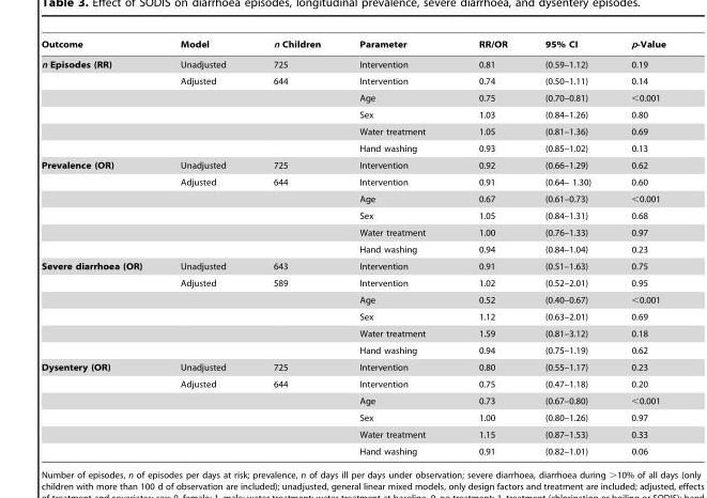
<table><thead><tr><td>Outcome</td><td>Model</td><td>n Children</td><td>Parameter</td><td>RR/OR</td><td>95% CI</td><td>p-Value</td></tr></thead><tbody><tr><td rowspan="6">n Episodes (RR)</td><td>Unadjusted</td><td>725</td><td>Intervention</td><td>0.81</td><td>(0.59–1.12)</td><td>0.19</td></tr><tr><td>Adjusted</td><td>644</td><td>Intervention</td><td>0.74</td><td>(0.50–1.11)</td><td>0.14</td></tr><tr><td></td><td></td><td>Age</td><td>0.75</td><td>(0.70–0.81)</td><td>&lt;0.001</td></tr><tr><td></td><td></td><td>Sex</td><td>1.03</td><td>(0.84–1.26)</td><td>0.80</td></tr><tr><td></td><td></td><td>Water treatment</td><td>1.05</td><td>(0.81–1.36)</td><td>0.69</td></tr><tr><td></td><td></td><td>Hand washing</td><td>0.93</td><td>(0.85–1.02)</td><td>0.13</td></tr><tr><td rowspan="6">Prevalence (OR)</td><td>Unadjusted</td><td>725</td><td>Intervention</td><td>0.92</td><td>(0.66–1.29)</td><td>0.62</td></tr><tr><td>Adjusted</td><td>644</td><td>Intervention</td><td>0.91</td><td>(0.64– 1.30)</td><td>0.60</td></tr><tr><td></td><td></td><td>Age</td><td>0.67</td><td>(0.61–0.73)</td><td>&lt;0.001</td></tr><tr><td></td><td></td><td>Sex</td><td>1.05</td><td>(0.84–1.31)</td><td>0.68</td></tr><tr><td></td><td></td><td>Water treatment</td><td>1.00</td><td>(0.76–1.33)</td><td>0.97</td></tr><tr><td></td><td></td><td>Hand washing</td><td>0.94</td><td>(0.84–1.04)</td><td>0.23</td></tr><tr><td rowspan="6">Severe diarrhoea (OR)</td><td>Unadjusted</td><td>643</td><td>Intervention</td><td>0.91</td><td>(0.51–1.63)</td><td>0.75</td></tr><tr><td>Adjusted</td><td>589</td><td>Intervention</td><td>1.02</td><td>(0.52–2.01)</td><td>0.95</td></tr><tr><td></td><td></td><td>Age</td><td>0.52</td><td>(0.40–0.67)</td><td>&lt;0.001</td></tr><tr><td></td><td></td><td>Sex</td><td>1.12</td><td>(0.63–2.01)</td><td>0.69</td></tr><tr><td></td><td></td><td>Water treatment</td><td>1.59</td><td>(0.81–3.12)</td><td>0.18</td></tr><tr><td></td><td></td><td>Hand washing</td><td>0.94</td><td>(0.75–1.19)</td><td>0.62</td></tr><tr><td rowspan="6">Dysentery (OR)</td><td>Unadjusted</td><td>725</td><td>Intervention</td><td>0.80</td><td>(0.55–1.17)</td><td>0.23</td></tr><tr><td>Adjusted</td><td>644</td><td>Intervention</td><td>0.75</td><td>(0.47–1.18)</td><td>0.20</td></tr><tr><td></td><td></td><td>Age</td><td>0.73</td><td>(0.67–0.80)</td><td>&lt;0.001</td></tr><tr><td></td><td></td><td>Sex</td><td>1.00</td><td>(0.80–1.26)</td><td>0.97</td></tr><tr><td></td><td></td><td>Water treatment</td><td>1.15</td><td>(0.87–1.53)</td><td>0.33</td></tr><tr><td></td><td></td><td>Hand washing</td><td>0.91</td><td>(0.82–1.01)</td><td>0.06</td></tr></tbody></table>